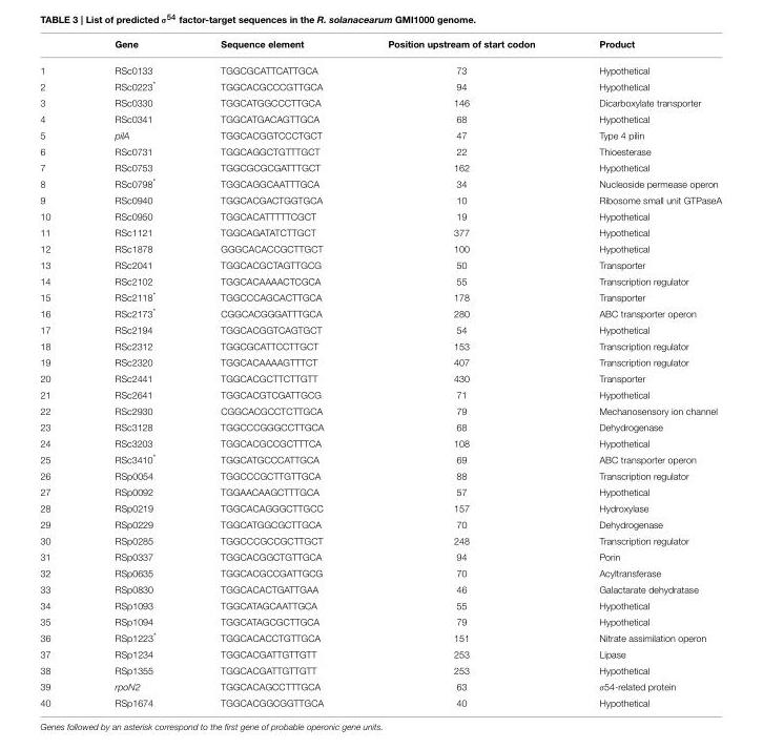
<table><thead><tr><td></td><td>Gene</td><td>Sequence element</td><td>Position upstream of start codon</td><td>Product</td></tr></thead><tbody><tr><td>1</td><td>RSc0133</td><td>TGGCGCATTCATTGCA</td><td>73</td><td>Hypothetical</td></tr><tr><td>2</td><td>RSc0223*</td><td>TGGCACGCCCGTTGCA</td><td>94</td><td>Hypothetical</td></tr><tr><td>3</td><td>RSc0330</td><td>TGGCATGGCCCTTGCA</td><td>146</td><td>Dicarboxylate transporter</td></tr><tr><td>4</td><td>RSc0341</td><td>TGGCATGACAGTTGCA</td><td>68</td><td>Hypothetical</td></tr><tr><td>5</td><td>pilA</td><td>TGGCACGGTCCCTGCT</td><td>47</td><td>Type 4 pilin</td></tr><tr><td>6</td><td>RSc0731</td><td>TGGCAGGCTGTTTGCT</td><td>22</td><td>Thioesterase</td></tr><tr><td>7</td><td>RSc0753</td><td>TGGCGCGCGATTTGCT</td><td>162</td><td>Hypothetical</td></tr><tr><td>8</td><td>RSc0798*</td><td>TGGCAGGCAATTTGCA</td><td>34</td><td>Nucleoside permease operon</td></tr><tr><td>9</td><td>RSc0940</td><td>TGGCACGACTGGTGCA</td><td>10</td><td>Ribosome small unit GTPaseA</td></tr><tr><td>10</td><td>RSc0950</td><td>TGGCACATTTTTCGCT</td><td>19</td><td>Hypothetical</td></tr><tr><td>11</td><td>RSc1121</td><td>TGGCAGATATCTTGCT</td><td>377</td><td>Hypothetical</td></tr><tr><td>12</td><td>RSc1878</td><td>GGGCACACCGCTTGCT</td><td>100</td><td>Hypothetical</td></tr><tr><td>13</td><td>RSc2041</td><td>TGGCACGCTAGTTGCG</td><td>50</td><td>Transporter</td></tr><tr><td>14</td><td>RSc2102</td><td>TGGCACAAAACTCGCA</td><td>55</td><td>Transcription regulator</td></tr><tr><td>15</td><td>RSc2118*</td><td>TGGCCCAGCACTTGCA</td><td>178</td><td>Transporter</td></tr><tr><td>16</td><td>RSc2173*</td><td>CGGCACGGGATTTGCA</td><td>280</td><td>ABC transporter operon</td></tr><tr><td>17</td><td>RSc2194</td><td>TGGCACGGTCAGTGCT</td><td>54</td><td>Hypothetical</td></tr><tr><td>18</td><td>RSc2312</td><td>TGGCGCATTCCTTGCT</td><td>153</td><td>Transcription regulator</td></tr><tr><td>19</td><td>RSc2320</td><td>TGGCACAAAAGTTTCT</td><td>407</td><td>Transcription regulator</td></tr><tr><td>20</td><td>RSc2441</td><td>TGGCACGCTTCTTGTT</td><td>430</td><td>Transporter</td></tr><tr><td>21</td><td>RSc2641</td><td>TGGCACGTCGATTGCG</td><td>71</td><td>Hypothetical</td></tr><tr><td>22</td><td>RSc2930</td><td>CGGCACGCCTCTTGCA</td><td>79</td><td>Mechanosensory ion channel</td></tr><tr><td>23</td><td>RSc3128</td><td>TGGCCCGGGCCTTGCA</td><td>68</td><td>Dehydrogenase</td></tr><tr><td>24</td><td>RSc3203</td><td>TGGCACGCCGCTTTCA</td><td>108</td><td>Hypothetical</td></tr><tr><td>25</td><td>RSc3410*</td><td>TGGCATGCCCATTGCA</td><td>69</td><td>ABC transporter operon</td></tr><tr><td>26</td><td>RSp0054</td><td>TGGCCCGCTTGTTGCA</td><td>88</td><td>Transcription regulator</td></tr><tr><td>27</td><td>RSp0092</td><td>TGGAACAAGCTTTGCA</td><td>57</td><td>Hypothetical</td></tr><tr><td>28</td><td>RSp0219</td><td>TGGCACAGGGCTTGCC</td><td>157</td><td>Hydroxylase</td></tr><tr><td>29</td><td>RSp0229</td><td>TGGCATGGCGCTTGCA</td><td>70</td><td>Dehydrogenase</td></tr><tr><td>30</td><td>RSp0285</td><td>TGGCCCGCCGCTTGCT</td><td>248</td><td>Transcription regulator</td></tr><tr><td>31</td><td>RSp0337</td><td>TGGCACGGCTGTTGCA</td><td>94</td><td>Porin</td></tr><tr><td>32</td><td>RSp0635</td><td>TGGCACGCCGATTGCG</td><td>70</td><td>Acyltransferase</td></tr><tr><td>33</td><td>RSp0830</td><td>TGGCACACTGATTGAA</td><td>46</td><td>Galactarate dehydratase</td></tr><tr><td>34</td><td>RSp1093</td><td>TGGCATAGCAATTGCA</td><td>55</td><td>Hypothetical</td></tr><tr><td>35</td><td>RSp1094</td><td>TGGCATAGCGCTTGCA</td><td>79</td><td>Hypothetical</td></tr><tr><td>36</td><td>RSp1223*</td><td>TGGCACACCTGTTGCA</td><td>151</td><td>Nitrate assimilation operon</td></tr><tr><td>37</td><td>RSp1234</td><td>TGGCACGATTGTTGTT</td><td>253</td><td>Lipase</td></tr><tr><td>38</td><td>RSp1355</td><td>TGGCACGATTGTTGTT</td><td>253</td><td>Hypothetical</td></tr><tr><td>39</td><td>rpoN2</td><td>TGGCACAGCCTTTGCA</td><td>63</td><td>σ54-related protein</td></tr><tr><td>40</td><td>RSp1674</td><td>TGGCACGGCGGTTGCA</td><td>40</td><td>Hypothetical</td></tr></tbody></table>